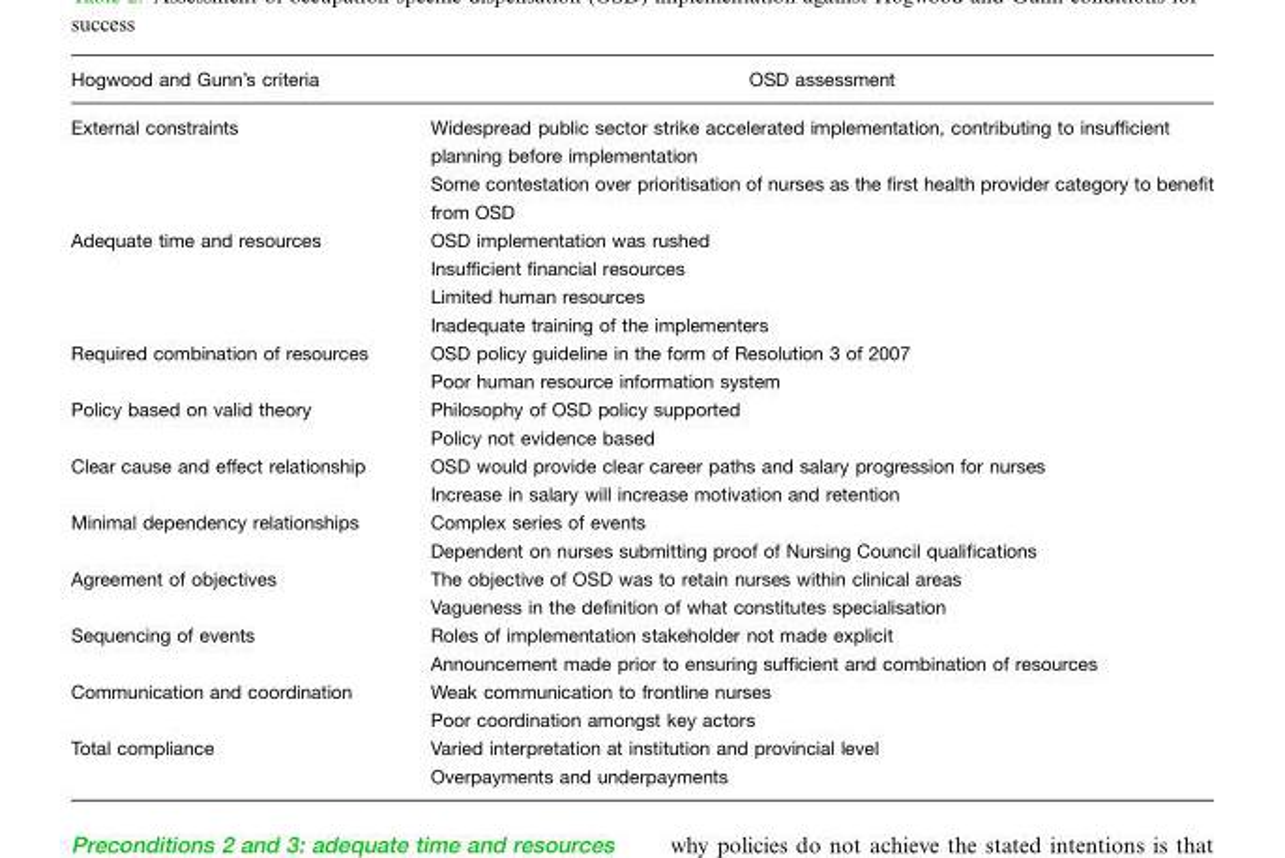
<table><thead><tr><td>Hogwood and Gunn’s criteria</td><td>OSD assessment</td></tr></thead><tbody><tr><td>External constraints</td><td>Widespread public sector strike accelerated implementation, contributing to insufficient planning before implementation Some contestation over prioritisation of nurses as the first health provider category to benefit from OSD</td></tr><tr><td>Adequate time and resources</td><td>OSD implementation was rushed Insufficient financial resources Limited human resources Inadequate training of the implementers</td></tr><tr><td>Required combination of resources</td><td>OSD policy guideline in the form of Resolution 3 of 2007 Poor human resource information system</td></tr><tr><td>Policy based on valid theory</td><td>Philosophy of OSD policy supported Policy not evidence based</td></tr><tr><td>Clear cause and effect relationship</td><td>OSD would provide clear career paths and salary progression for nurses Increase in salary will increase motivation and retention</td></tr><tr><td>Minimal dependency relationships</td><td>Complex series of events Dependent on nurses submitting proof of Nursing Council qualifications</td></tr><tr><td>Agreement of objectives</td><td>The objective of OSD was to retain nurses within clinical areas Vagueness in the definition of what constitutes specialisation</td></tr><tr><td>Sequencing of events</td><td>Roles of implementation stakeholder not made explicit Announcement made prior to ensuring sufficient and combination of resources</td></tr><tr><td>Communication and coordination</td><td>Weak communication to frontline nurses Poor coordination amongst key actors</td></tr><tr><td>Total compliance</td><td>Varied interpretation at institution and provincial level Overpayments and underpayments</td></tr></tbody></table>